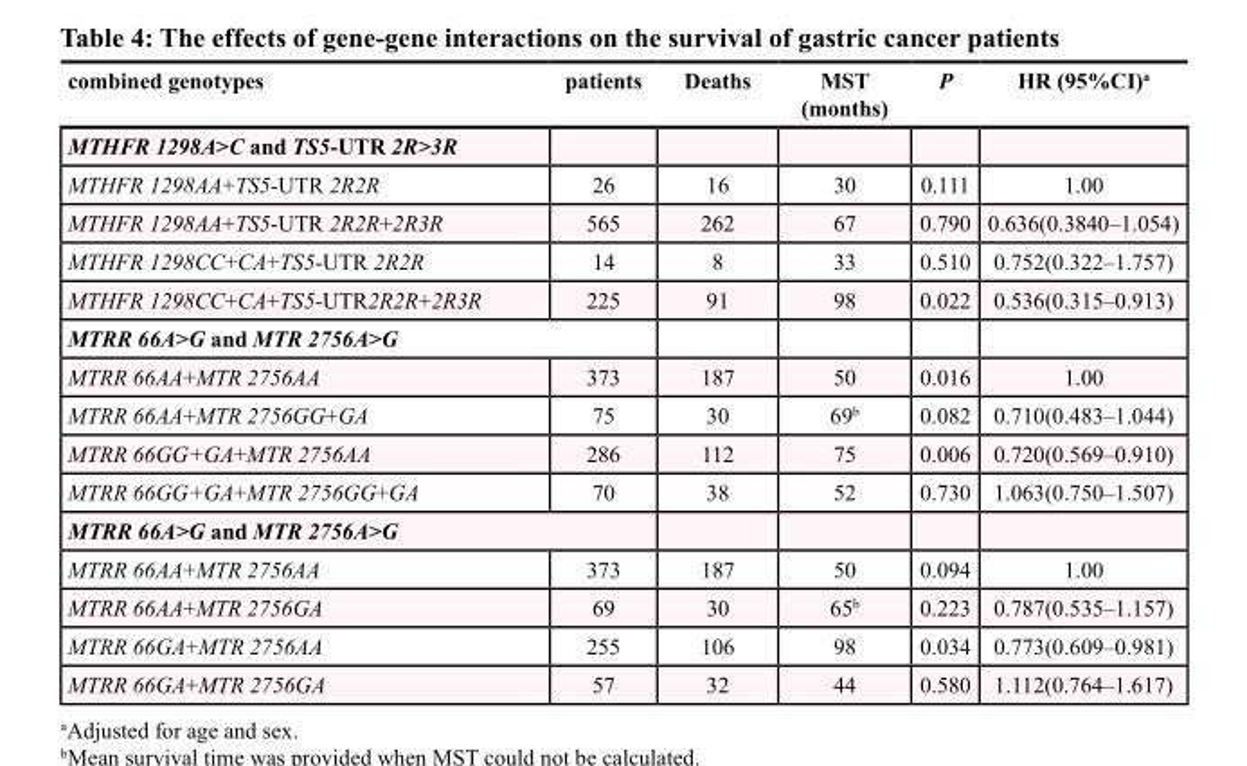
<table><thead><tr><td>combined genotypes</td><td>patients</td><td>Deaths</td><td>MST (months)</td><td>P</td><td>HR (95%CI)<sup>a</sup></td></tr></thead><tbody><tr><td colspan="6">MTHFR 1298A&gt;C and TS5-UTR 2R&gt;3R</td></tr><tr><td>MTHFR 1298AA+TS5-UTR 2R2R</td><td>26</td><td>16</td><td>30</td><td>0.111</td><td>1.00</td></tr><tr><td>MTHFR 1298AA+TS5-UTR 2R2R+2R3R</td><td>565</td><td>262</td><td>67</td><td>0.790</td><td>0.636(0.3840–1.054)</td></tr><tr><td>MTHFR 1298CC+CA+TS5-UTR 2R2R</td><td>14</td><td>8</td><td>33</td><td>0.510</td><td>0.752(0.322–1.757)</td></tr><tr><td>MTHFR 1298CC+CA+TS5-UTR2R2R+2R3R</td><td>225</td><td>91</td><td>98</td><td>0.022</td><td>0.536(0.315–0.913)</td></tr><tr><td colspan="6">MTRR 66A&gt;G and MTR 2756A&gt;G</td></tr><tr><td>MTRR 66AA+MTR 2756AA</td><td>373</td><td>187</td><td>50</td><td>0.016</td><td>1.00</td></tr><tr><td>MTRR 66AA+MTR 2756GG+GA</td><td>75</td><td>30</td><td>69<sup>b</sup></td><td>0.082</td><td>0.710(0.483–1.044)</td></tr><tr><td>MTRR 66GG+GA+MTR 2756AA</td><td>286</td><td>112</td><td>75</td><td>0.006</td><td>0.720(0.569–0.910)</td></tr><tr><td>MTRR 66GG+GA+MTR 2756GG+GA</td><td>70</td><td>38</td><td>52</td><td>0.730</td><td>1.063(0.750–1.507)</td></tr><tr><td colspan="6">MTRR 66A&gt;G and MTR 2756A&gt;G</td></tr><tr><td>MTRR 66AA+MTR 2756AA</td><td>373</td><td>187</td><td>50</td><td>0.094</td><td>1.00</td></tr><tr><td>MTRR 66AA+MTR 2756GA</td><td>69</td><td>30</td><td>65<sup>b</sup></td><td>0.223</td><td>0.787(0.535–1.157)</td></tr><tr><td>MTRR 66GA+MTR 2756AA</td><td>255</td><td>106</td><td>98</td><td>0.034</td><td>0.773(0.609–0.981)</td></tr><tr><td>MTRR 66GA+MTR 2756GA</td><td>57</td><td>32</td><td>44</td><td>0.580</td><td>1.112(0.764–1.617)</td></tr></tbody></table>